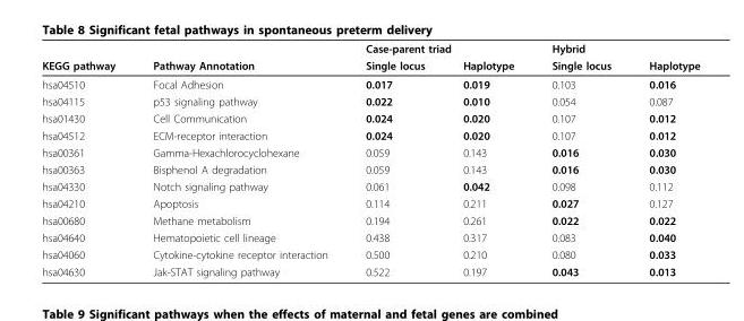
<table><thead><tr><td rowspan="2">KEGG pathway</td><td rowspan="2">Pathway Annotation</td><td colspan="2">Case-parent triad</td><td colspan="2">Hybrid</td></tr><tr><td>Single locus</td><td>Haplotype</td><td>Single locus</td><td>Haplotype</td></tr></thead><tbody><tr><td>hsa04510</td><td>Focal Adhesion</td><td>0.017</td><td>0.019</td><td>0.103</td><td>0.016</td></tr><tr><td>hsa04115</td><td>p53 signaling pathway</td><td>0.022</td><td>0.010</td><td>0.054</td><td>0.087</td></tr><tr><td>hsa01430</td><td>Cell Communication</td><td>0.024</td><td>0.020</td><td>0.107</td><td>0.012</td></tr><tr><td>hsa04512</td><td>ECM-receptor interaction</td><td>0.024</td><td>0.020</td><td>0.107</td><td>0.012</td></tr><tr><td>hsa00361</td><td>Gamma-Hexachlorocyclohexane</td><td>0.059</td><td>0.143</td><td>0.016</td><td>0.030</td></tr><tr><td>hsa00363</td><td>Bisphenol A degradation</td><td>0.059</td><td>0.143</td><td>0.016</td><td>0.030</td></tr><tr><td>hsa04330</td><td>Notch signaling pathway</td><td>0.061</td><td>0.042</td><td>0.098</td><td>0.112</td></tr><tr><td>hsa04210</td><td>Apoptosis</td><td>0.114</td><td>0.211</td><td>0.027</td><td>0.127</td></tr><tr><td>hsa00680</td><td>Methane metabolism</td><td>0.194</td><td>0.261</td><td>0.022</td><td>0.022</td></tr><tr><td>hsa04640</td><td>Hematopoietic cell lineage</td><td>0.438</td><td>0.317</td><td>0.083</td><td>0.040</td></tr><tr><td>hsa04060</td><td>Cytokine-cytokine receptor interaction</td><td>0.500</td><td>0.210</td><td>0.080</td><td>0.033</td></tr><tr><td>hsa04630</td><td>Jak-STAT signaling pathway</td><td>0.522</td><td>0.197</td><td>0.043</td><td>0.013</td></tr></tbody></table>